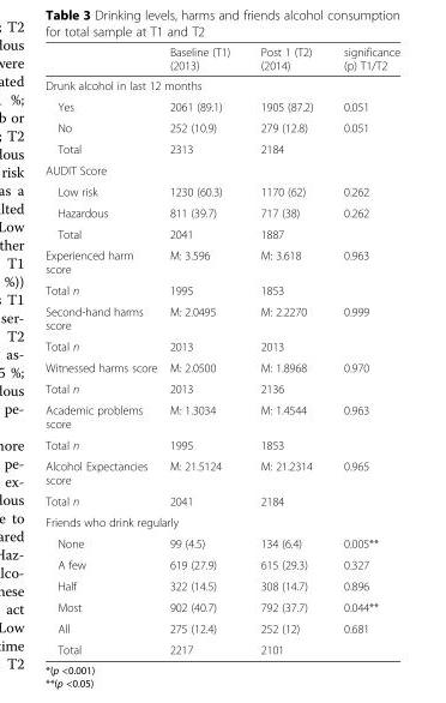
<table><thead><tr><td></td><td>Baseline (T1) (2013)</td><td>Post 1 (T2) (2014)</td><td>significance (p) T1/T2</td></tr></thead><tbody><tr><td colspan="4">Drunk alcohol in last 12 months</td></tr><tr><td>Yes</td><td>2061 (89.1)</td><td>1905 (87.2)</td><td>0.051</td></tr><tr><td>No</td><td>252 (10.9)</td><td>279 (12.8)</td><td>0.051</td></tr><tr><td>Total</td><td>2313</td><td>2184</td><td></td></tr><tr><td colspan="4">AUDIT Score</td></tr><tr><td>Low risk</td><td>1230 (60.3)</td><td>1170 (62)</td><td>0.262</td></tr><tr><td>Hazardous</td><td>811 (39.7)</td><td>717 (38)</td><td>0.262</td></tr><tr><td>Total</td><td>2041</td><td>1887</td><td></td></tr><tr><td>Experienced harm score</td><td>M: 3.596</td><td>M: 3.618</td><td rowspan="2">0.963</td></tr><tr><td>Total n</td><td>1995</td><td>1853</td></tr><tr><td>Second-hand harms score</td><td>M: 2.0495</td><td>M: 2.2270</td><td rowspan="2">0.999</td></tr><tr><td>Total n</td><td>2013</td><td>2013</td></tr><tr><td>Witnessed harms score</td><td>M: 2.0500</td><td>M: 1.8968</td><td rowspan="2">0.970</td></tr><tr><td>Total n</td><td>2013</td><td>2136</td></tr><tr><td>Academic problems score</td><td>M: 1.3034</td><td>M: 1.4544</td><td rowspan="2">0.963</td></tr><tr><td>Total n</td><td>1995</td><td>1853</td></tr><tr><td>Alcohol Expectancies score</td><td>M: 21.5124</td><td>M: 21.2314</td><td rowspan="2">0.965</td></tr><tr><td>Total n</td><td>2041</td><td>2184</td></tr><tr><td colspan="4">Friends who drink regularly</td></tr><tr><td>None</td><td>99 (4.5)</td><td>134 (6.4)</td><td>0.005**</td></tr><tr><td>A few</td><td>619 (27.9)</td><td>615 (29.3)</td><td>0.327</td></tr><tr><td>Half</td><td>322 (14.5)</td><td>308 (14.7)</td><td>0.896</td></tr><tr><td>Most</td><td>902 (40.7)</td><td>792 (37.7)</td><td>0.044**</td></tr><tr><td>All</td><td>275 (12.4)</td><td>252 (12)</td><td>0.681</td></tr><tr><td>Total</td><td>2217</td><td>2101</td><td></td></tr></tbody></table>